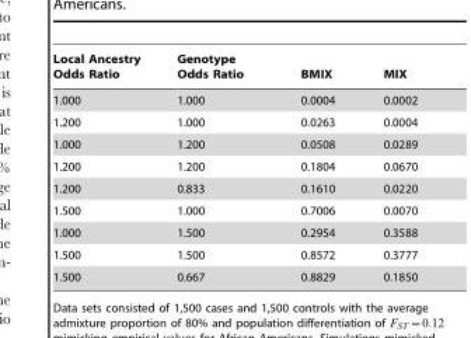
<table><thead><tr><td>Local Ancestry Odds Ratio</td><td>Genotype Odds Ratio</td><td>BMIX</td><td>MIX</td></tr></thead><tbody><tr><td>1.000</td><td>1.000</td><td>0.0004</td><td>0.0002</td></tr><tr><td>1.200</td><td>1.000</td><td>0.0263</td><td>0.0004</td></tr><tr><td>1.000</td><td>1.200</td><td>0.0508</td><td>0.0289</td></tr><tr><td>1.200</td><td>1.200</td><td>0.1804</td><td>0.0670</td></tr><tr><td>1.200</td><td>0.833</td><td>0.1610</td><td>0.0220</td></tr><tr><td>1.500</td><td>1.000</td><td>0.7006</td><td>0.0070</td></tr><tr><td>1.000</td><td>1.500</td><td>0.2954</td><td>0.3588</td></tr><tr><td>1.500</td><td>1.500</td><td>0.8572</td><td>0.3777</td></tr><tr><td>1.500</td><td>0.667</td><td>0.8829</td><td>0.1850</td></tr></tbody></table>